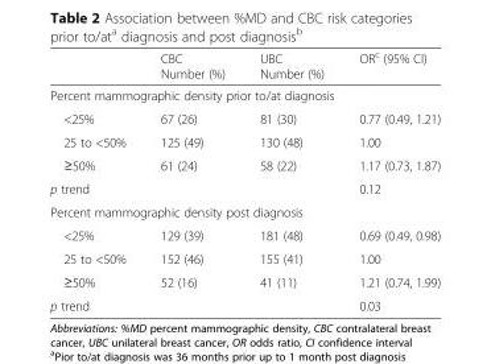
<table><thead><tr><td></td><td>CBC Number (%)</td><td>UBC Number (%)</td><td>OR<sup>c</sup> (95% CI)</td></tr></thead><tbody><tr><td colspan="4">Percent mammographic density prior to/at diagnosis</td></tr><tr><td>&lt;25%</td><td>67 (26)</td><td>81 (30)</td><td>0.77 (0.49, 1.21)</td></tr><tr><td>25 to &lt;50%</td><td>125 (49)</td><td>130 (48)</td><td>1.00</td></tr><tr><td>≥50%</td><td>61 (24)</td><td>58 (22)</td><td>1.17 (0.73, 1.87)</td></tr><tr><td>p trend</td><td></td><td></td><td>0.12</td></tr><tr><td colspan="4">Percent mammographic density post diagnosis</td></tr><tr><td>&lt;25%</td><td>129 (39)</td><td>181 (48)</td><td>0.69 (0.49, 0.98)</td></tr><tr><td>25 to &lt;50%</td><td>152 (46)</td><td>155 (41)</td><td>1.00</td></tr><tr><td>≥50%</td><td>52 (16)</td><td>41 (11)</td><td>1.21 (0.74, 1.99)</td></tr><tr><td>p trend</td><td></td><td></td><td>0.03</td></tr></tbody></table>